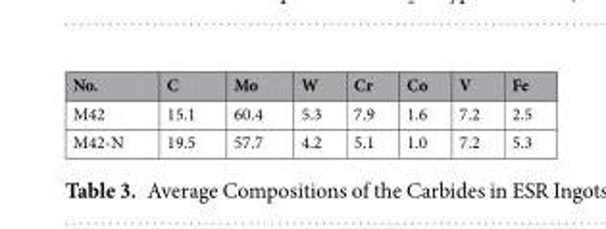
<table><thead><tr><td>No.</td><td>C</td><td>Mo</td><td>W</td><td>Cr</td><td>Co</td><td>V</td><td>Fe</td></tr></thead><tbody><tr><td>M42</td><td>15.1</td><td>60.4</td><td>5.3</td><td>7.9</td><td>1.6</td><td>7.2</td><td>2.5</td></tr><tr><td>M42-N</td><td>19.5</td><td>57.7</td><td>4.2</td><td>5.1</td><td>1.0</td><td>7.2</td><td>5.3</td></tr></tbody></table>